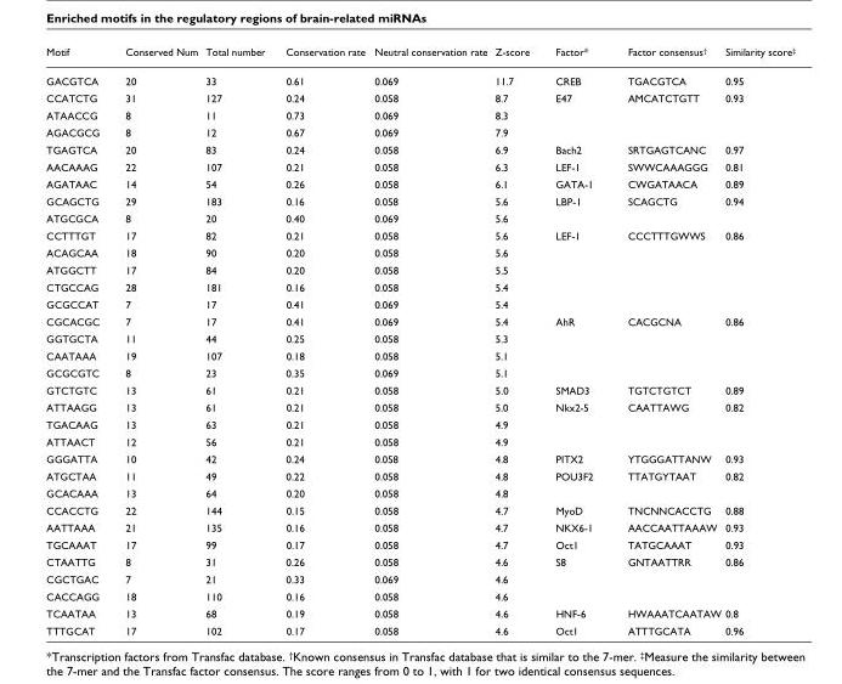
<table><thead><tr><td>Motif</td><td>Conserved Num</td><td>Total number</td><td>Conservation rate</td><td>Neutral conservation rate</td><td>Z-score</td><td>Factor*</td><td>Factor consensus†</td><td>Similarity score‡</td></tr></thead><tbody><tr><td>GACGTCA</td><td>20</td><td>33</td><td>0.61</td><td>0.069</td><td>11.7</td><td>CREB</td><td>TGACGTCA</td><td>0.95</td></tr><tr><td>CCATCTG</td><td>31</td><td>127</td><td>0.24</td><td>0.058</td><td>8.7</td><td>E47</td><td>AMCATCTGTT</td><td>0.93</td></tr><tr><td>ATAACCG</td><td>8</td><td>11</td><td>0.73</td><td>0.069</td><td>8.3</td><td></td><td></td><td></td></tr><tr><td>AGACGCG</td><td>8</td><td>12</td><td>0.67</td><td>0.069</td><td>7.9</td><td></td><td></td><td></td></tr><tr><td>TGAGTCA</td><td>20</td><td>83</td><td>0.24</td><td>0.058</td><td>6.9</td><td>Bach2</td><td>SRTGAGTCANC</td><td>0.97</td></tr><tr><td>AACAAAG</td><td>22</td><td>107</td><td>0.21</td><td>0.058</td><td>6.3</td><td>LEF-1</td><td>SWWCAAAGGG</td><td>0.81</td></tr><tr><td>AGATAAC</td><td>14</td><td>54</td><td>0.26</td><td>0.058</td><td>6.1</td><td>GATA-1</td><td>CWGATAACA</td><td>0.89</td></tr><tr><td>GCAGCTG</td><td>29</td><td>183</td><td>0.16</td><td>0.058</td><td>5.6</td><td>LBP-1</td><td>SCAGCTG</td><td>0.94</td></tr><tr><td>ATGCGCA</td><td>8</td><td>20</td><td>0.40</td><td>0.069</td><td>5.6</td><td></td><td></td><td></td></tr><tr><td>CCTTTGT</td><td>17</td><td>82</td><td>0.21</td><td>0.058</td><td>5.6</td><td>LEF-1</td><td>CCCTTTGWWS</td><td>0.86</td></tr><tr><td>ACAGCAA</td><td>18</td><td>90</td><td>0.20</td><td>0.058</td><td>5.6</td><td></td><td></td><td></td></tr><tr><td>ATGGCTT</td><td>17</td><td>84</td><td>0.20</td><td>0.058</td><td>5.5</td><td></td><td></td><td></td></tr><tr><td>CTGCCAG</td><td>28</td><td>181</td><td>0.16</td><td>0.058</td><td>5.4</td><td></td><td></td><td></td></tr><tr><td>GCGCCAT</td><td>7</td><td>17</td><td>0.41</td><td>0.069</td><td>5.4</td><td></td><td></td><td></td></tr><tr><td>CGCACGC</td><td>7</td><td>17</td><td>0.41</td><td>0.069</td><td>5.4</td><td>AhR</td><td>CACGCNA</td><td>0.86</td></tr><tr><td>GGTGCTA</td><td>11</td><td>44</td><td>0.25</td><td>0.058</td><td>5.3</td><td></td><td></td><td></td></tr><tr><td>CAATAAA</td><td>19</td><td>107</td><td>0.18</td><td>0.058</td><td>5.1</td><td></td><td></td><td></td></tr><tr><td>GCGCGTC</td><td>8</td><td>23</td><td>0.35</td><td>0.069</td><td>5.1</td><td></td><td></td><td></td></tr><tr><td>GTCTGTC</td><td>13</td><td>61</td><td>0.21</td><td>0.058</td><td>5.0</td><td>SMAD3</td><td>TGTCTGTCT</td><td>0.89</td></tr><tr><td>ATTAAGG</td><td>13</td><td>61</td><td>0.21</td><td>0.058</td><td>5.0</td><td>Nkx2-5</td><td>CAATTAWG</td><td>0.82</td></tr><tr><td>TGACAAG</td><td>13</td><td>63</td><td>0.21</td><td>0.058</td><td>4.9</td><td></td><td></td><td></td></tr><tr><td>ATTAACT</td><td>12</td><td>56</td><td>0.21</td><td>0.058</td><td>4.9</td><td></td><td></td><td></td></tr><tr><td>GGGATTA</td><td>10</td><td>42</td><td>0.24</td><td>0.058</td><td>4.8</td><td>PITX2</td><td>YTGGGATTANW</td><td>0.93</td></tr><tr><td>ATGCTAA</td><td>11</td><td>49</td><td>0.22</td><td>0.058</td><td>4.8</td><td>POU3F2</td><td>TTATGYTAAT</td><td>0.82</td></tr><tr><td>GCACAAA</td><td>13</td><td>64</td><td>0.20</td><td>0.058</td><td>4.8</td><td></td><td></td><td></td></tr><tr><td>CCACCTG</td><td>22</td><td>144</td><td>0.15</td><td>0.058</td><td>4.7</td><td>MyoD</td><td>TNCNNCACCTG</td><td>0.88</td></tr><tr><td>AATTAAA</td><td>21</td><td>135</td><td>0.16</td><td>0.058</td><td>4.7</td><td>NKX6-1</td><td>AACCAATTAAAW</td><td>0.93</td></tr><tr><td>TGCAAAT</td><td>17</td><td>99</td><td>0.17</td><td>0.058</td><td>4.7</td><td>Oct1</td><td>TATGCAAAT</td><td>0.93</td></tr><tr><td>CTAATTG</td><td>8</td><td>31</td><td>0.26</td><td>0.058</td><td>4.6</td><td>S8</td><td>GNTAATTRR</td><td>0.86</td></tr><tr><td>CGCTGAC</td><td>7</td><td>21</td><td>0.33</td><td>0.069</td><td>4.6</td><td></td><td></td><td></td></tr><tr><td>CACCAGG</td><td>18</td><td>110</td><td>0.16</td><td>0.058</td><td>4.6</td><td></td><td></td><td></td></tr><tr><td>TCAATAA</td><td>13</td><td>68</td><td>0.19</td><td>0.058</td><td>4.6</td><td>HNF-6</td><td>HWAAATCAATAW</td><td>0.8</td></tr><tr><td>TTTGCAT</td><td>17</td><td>102</td><td>0.17</td><td>0.058</td><td>4.6</td><td>Oct1</td><td>ATTTGCATA</td><td>0.96</td></tr></tbody></table>